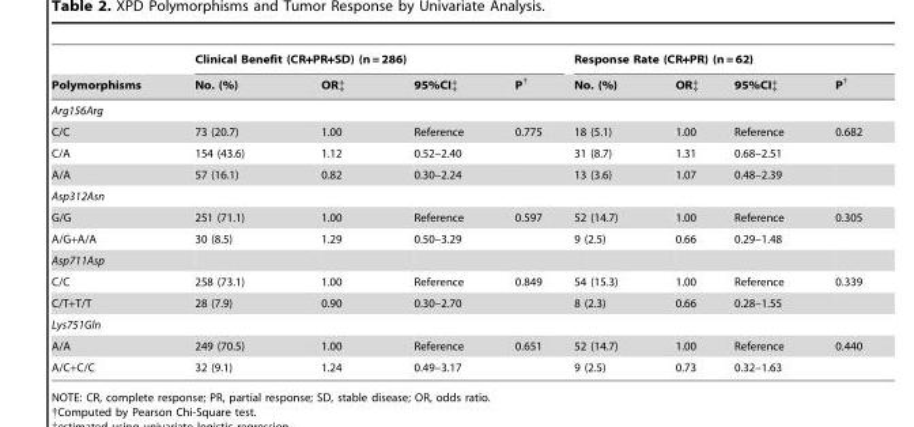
<table><thead><tr><td rowspan="2">Polymorphisms</td><td colspan="4">Clinical Benefit (CR+PR+SD) (n = 286)</td><td colspan="4">Response Rate (CR+PR) (n = 62)</td></tr><tr><td>No. (%)</td><td>OR‡</td><td>95%CI‡</td><td>P†</td><td>No. (%)</td><td>OR‡</td><td>95%CI‡</td><td>P†</td></tr></thead><tbody><tr><td colspan="9">Arg156Arg</td></tr><tr><td>C/C</td><td>73 (20.7)</td><td>1.00</td><td>Reference</td><td>0.775</td><td>18 (5.1)</td><td>1.00</td><td>Reference</td><td>0.682</td></tr><tr><td>C/A</td><td>154 (43.6)</td><td>1.12</td><td>0.52–2.40</td><td></td><td>31 (8.7)</td><td>1.31</td><td>0.68–2.51</td><td></td></tr><tr><td>A/A</td><td>57 (16.1)</td><td>0.82</td><td>0.30–2.24</td><td></td><td>13 (3.6)</td><td>1.07</td><td>0.48–2.39</td><td></td></tr><tr><td colspan="9">Asp312Asn</td></tr><tr><td>G/G</td><td>251 (71.1)</td><td>1.00</td><td>Reference</td><td>0.597</td><td>52 (14.7)</td><td>1.00</td><td>Reference</td><td>0.305</td></tr><tr><td>A/G+A/A</td><td>30 (8.5)</td><td>1.29</td><td>0.50–3.29</td><td></td><td>9 (2.5)</td><td>0.66</td><td>0.29–1.48</td><td></td></tr><tr><td colspan="9">Asp711Asp</td></tr><tr><td>C/C</td><td>258 (73.1)</td><td>1.00</td><td>Reference</td><td>0.849</td><td>54 (15.3)</td><td>1.00</td><td>Reference</td><td>0.339</td></tr><tr><td>C/T+T/T</td><td>28 (7.9)</td><td>0.90</td><td>0.30–2.70</td><td></td><td>8 (2.3)</td><td>0.66</td><td>0.28–1.55</td><td></td></tr><tr><td colspan="9">Lys751Gln</td></tr><tr><td>A/A</td><td>249 (70.5)</td><td>1.00</td><td>Reference</td><td>0.651</td><td>52 (14.7)</td><td>1.00</td><td>Reference</td><td>0.440</td></tr><tr><td>A/C+C/C</td><td>32 (9.1)</td><td>1.24</td><td>0.49–3.17</td><td></td><td>9 (2.5)</td><td>0.73</td><td>0.32–1.63</td><td></td></tr></tbody></table>